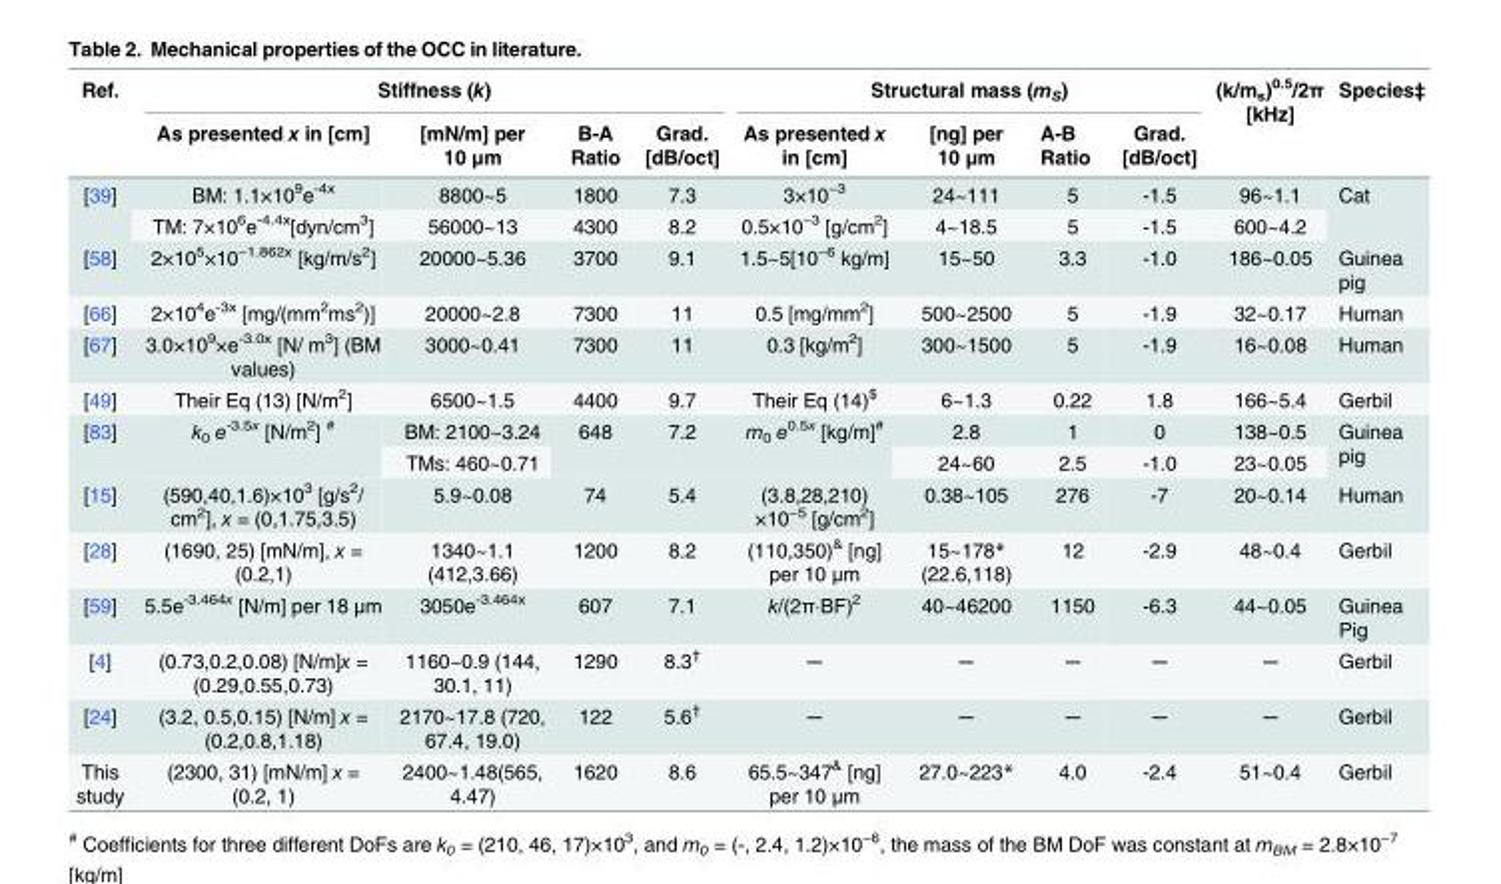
<table><thead><tr><td rowspan="2">Ref.</td><td colspan="4">Stiffness (k)</td><td colspan="4">Structural mass (m<sub>S</sub>)</td><td rowspan="2">(k/m<sub>s</sub>)<sup>0.5</sup>/2π [kHz]</td><td rowspan="2">Species‡</td></tr><tr><td>As presented x in [cm]</td><td>[mN/m] per 10 μm</td><td>B-A Ratio</td><td>Grad. [dB/oct]</td><td>As presented x in [cm]</td><td>[ng] per 10 μm</td><td>A-B Ratio</td><td>Grad. [dB/oct]</td></tr></thead><tbody><tr><td rowspan="2">[39]</td><td>BM: 1.1×10<sup>9</sup>e<sup>-4x</sup></td><td>8800~5</td><td>1800</td><td>7.3</td><td>3×10<sup>−3</sup></td><td>24~111</td><td>5</td><td>-1.5</td><td>96~1.1</td><td rowspan="2">Cat</td></tr><tr><td>TM: 7×10<sup>6</sup>e<sup>-4.4x</sup>[dyn/cm<sup>3</sup>]</td><td>56000~13</td><td>4300</td><td>8.2</td><td>0.5×10<sup>−3</sup> [g/cm<sup>2</sup>]</td><td>4~18.5</td><td>5</td><td>-1.5</td><td>600~4.2</td></tr><tr><td>[58]</td><td>2×10<sup>5</sup>×10<sup>−1.862x</sup> [kg/m/s<sup>2</sup>]</td><td>20000~5.36</td><td>3700</td><td>9.1</td><td>1.5~5[10<sup>−6</sup> kg/m]</td><td>15~50</td><td>3.3</td><td>-1.0</td><td>186~0.05</td><td>Guinea pig</td></tr><tr><td>[66]</td><td>2×10<sup>4</sup>e<sup>-3x</sup> [mg/(mm<sup>2</sup>ms<sup>2</sup>)]</td><td>20000~2.8</td><td>7300</td><td>11</td><td>0.5 [mg/mm<sup>2</sup>]</td><td>500~2500</td><td>5</td><td>-1.9</td><td>32~0.17</td><td>Human</td></tr><tr><td>[67]</td><td>3.0×10<sup>9</sup>×e<sup>-3.0x</sup> [N/ m<sup>3</sup>] (BM values)</td><td>3000~0.41</td><td>7300</td><td>11</td><td>0.3 [kg/m<sup>2</sup>]</td><td>300~1500</td><td>5</td><td>-1.9</td><td>16~0.08</td><td>Human</td></tr><tr><td>[49]</td><td>Their Eq (13) [N/m<sup>2</sup>]</td><td>6500~1.5</td><td>4400</td><td>9.7</td><td>Their Eq (14)<sup>$</sup></td><td>6~1.3</td><td>0.22</td><td>1.8</td><td>166~5.4</td><td>Gerbil</td></tr><tr><td rowspan="2">[83]</td><td rowspan="2">k<sub>0</sub> e<sup>-3.5x</sup> [N/m<sup>2</sup>] <sup>#</sup></td><td>BM: 2100~3.24</td><td rowspan="2">648</td><td rowspan="2">7.2</td><td rowspan="2">m<sub>0</sub> e<sup>0.5x</sup> [kg/m]<sup>#</sup></td><td>2.8</td><td>1</td><td>0</td><td>138~0.5</td><td rowspan="2">Guinea pig</td></tr><tr><td>TMs: 460~0.71</td><td>24~60</td><td>2.5</td><td>-1.0</td><td>23~0.05</td></tr><tr><td>[15]</td><td>(590,40,1.6)×10<sup>3</sup> [g/s<sup>2</sup>/ cm<sup>2</sup>], x = (0,1.75,3.5)</td><td>5.9~0.08</td><td>74</td><td>5.4</td><td>(3.8,28,210) ×10<sup>−5</sup> [g/cm<sup>2</sup>]</td><td>0.38~105</td><td>276</td><td>-7</td><td>20~0.14</td><td>Human</td></tr><tr><td>[28]</td><td>(1690, 25) [mN/m], x = (0.2,1)</td><td>1340~1.1 (412,3.66)</td><td>1200</td><td>8.2</td><td>(110,350)<sup>&amp;</sup> [ng] per 10 μm</td><td>15~178* (22.6,118)</td><td>12</td><td>-2.9</td><td>48~0.4</td><td>Gerbil</td></tr><tr><td>[59]</td><td>5.5e<sup>-3.464x</sup> [N/m] per 18 μm</td><td>3050e<sup>-3.464x</sup></td><td>607</td><td>7.1</td><td>k/(2π⋅BF)<sup>2</sup></td><td>40~46200</td><td>1150</td><td>-6.3</td><td>44~0.05</td><td>Guinea Pig</td></tr><tr><td>[4]</td><td>(0.73,0.2,0.08) [N/m]x = (0.29,0.55,0.73)</td><td>1160~0.9 (144, 30.1, 11)</td><td>1290</td><td>8.3<sup>†</sup></td><td>─</td><td>─</td><td>─</td><td>─</td><td>─</td><td>Gerbil</td></tr><tr><td>[24]</td><td>(3.2, 0.5,0.15) [N/m] x = (0.2,0.8,1.18)</td><td>2170~17.8 (720, 67.4, 19.0)</td><td>122</td><td>5.6<sup>†</sup></td><td>─</td><td>─</td><td>─</td><td>─</td><td>─</td><td>Gerbil</td></tr><tr><td>This study</td><td>(2300, 31) [mN/m] x = (0.2, 1)</td><td>2400~1.48(565, 4.47)</td><td>1620</td><td>8.6</td><td>65.5~347<sup>&amp;</sup> [ng] per 10 μm</td><td>27.0~223*</td><td>4.0</td><td>-2.4</td><td>51~0.4</td><td>Gerbil</td></tr></tbody></table>